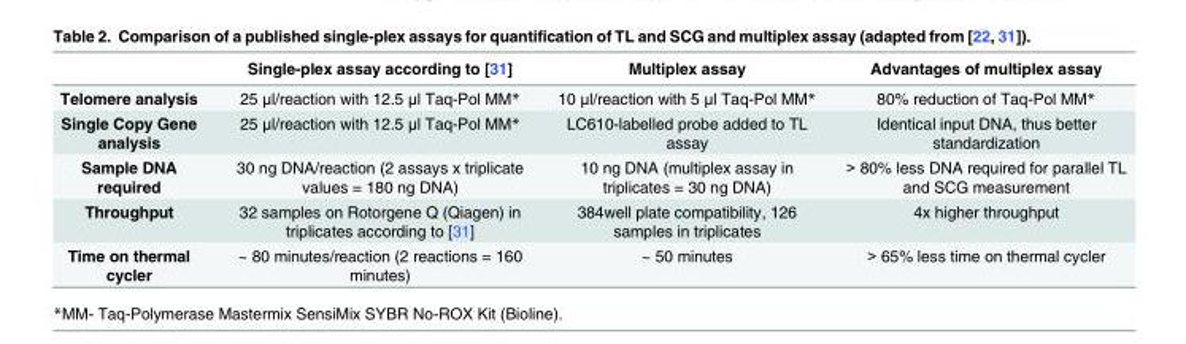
<table><thead><tr><td></td><td>Single-plex assay according to [31]</td><td>Multiplex assay</td><td>Advantages of multiplex assay</td></tr></thead><tbody><tr><td>Telomere analysis</td><td>25 μl/reaction with 12.5 μl Taq-Pol MM*</td><td>10 μl/reaction with 5 μl Taq-Pol MM*</td><td>80% reduction of Taq-Pol MM*</td></tr><tr><td>Single Copy Gene analysis</td><td>25 μl/reaction with 12.5 μl Taq-Pol MM*</td><td>LC610-labelled probe added to TL assay</td><td>Identical input DNA, thus better standardization</td></tr><tr><td>Sample DNA required</td><td>30 ng DNA/reaction (2 assays x triplicate values = 180 ng DNA)</td><td>10 ng DNA (multiplex assay in triplicates = 30 ng DNA)</td><td>&gt; 80% less DNA required for parallel TL and SCG measurement</td></tr><tr><td>Throughput</td><td>32 samples on Rotorgene Q (Qiagen) in triplicates according to [31]</td><td>384well plate compatibility, 126 samples in triplicates</td><td>4x higher throughput</td></tr><tr><td>Time on thermal cycler</td><td>~ 80 minutes/reaction (2 reactions = 160 minutes)</td><td>~ 50 minutes</td><td>&gt; 65% less time on thermal cycler</td></tr></tbody></table>